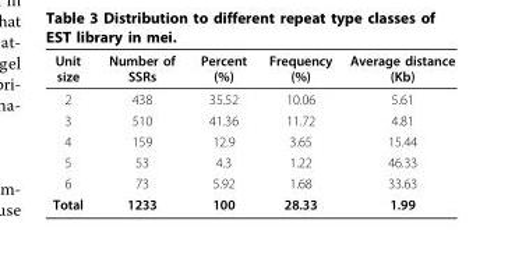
<table><thead><tr><td>Unit size</td><td>Number of SSRs</td><td>Percent (%)</td><td>Frequency (%)</td><td>Average distance (Kb)</td></tr></thead><tbody><tr><td>2</td><td>438</td><td>35.52</td><td>10.06</td><td>5.61</td></tr><tr><td>3</td><td>510</td><td>41.36</td><td>11.72</td><td>4.81</td></tr><tr><td>4</td><td>159</td><td>12.9</td><td>3.65</td><td>15.44</td></tr><tr><td>5</td><td>53</td><td>4.3</td><td>1.22</td><td>46.33</td></tr><tr><td>6</td><td>73</td><td>5.92</td><td>1.68</td><td>33.63</td></tr><tr><td>Total</td><td>1233</td><td>100</td><td>28.33</td><td>1.99</td></tr></tbody></table>